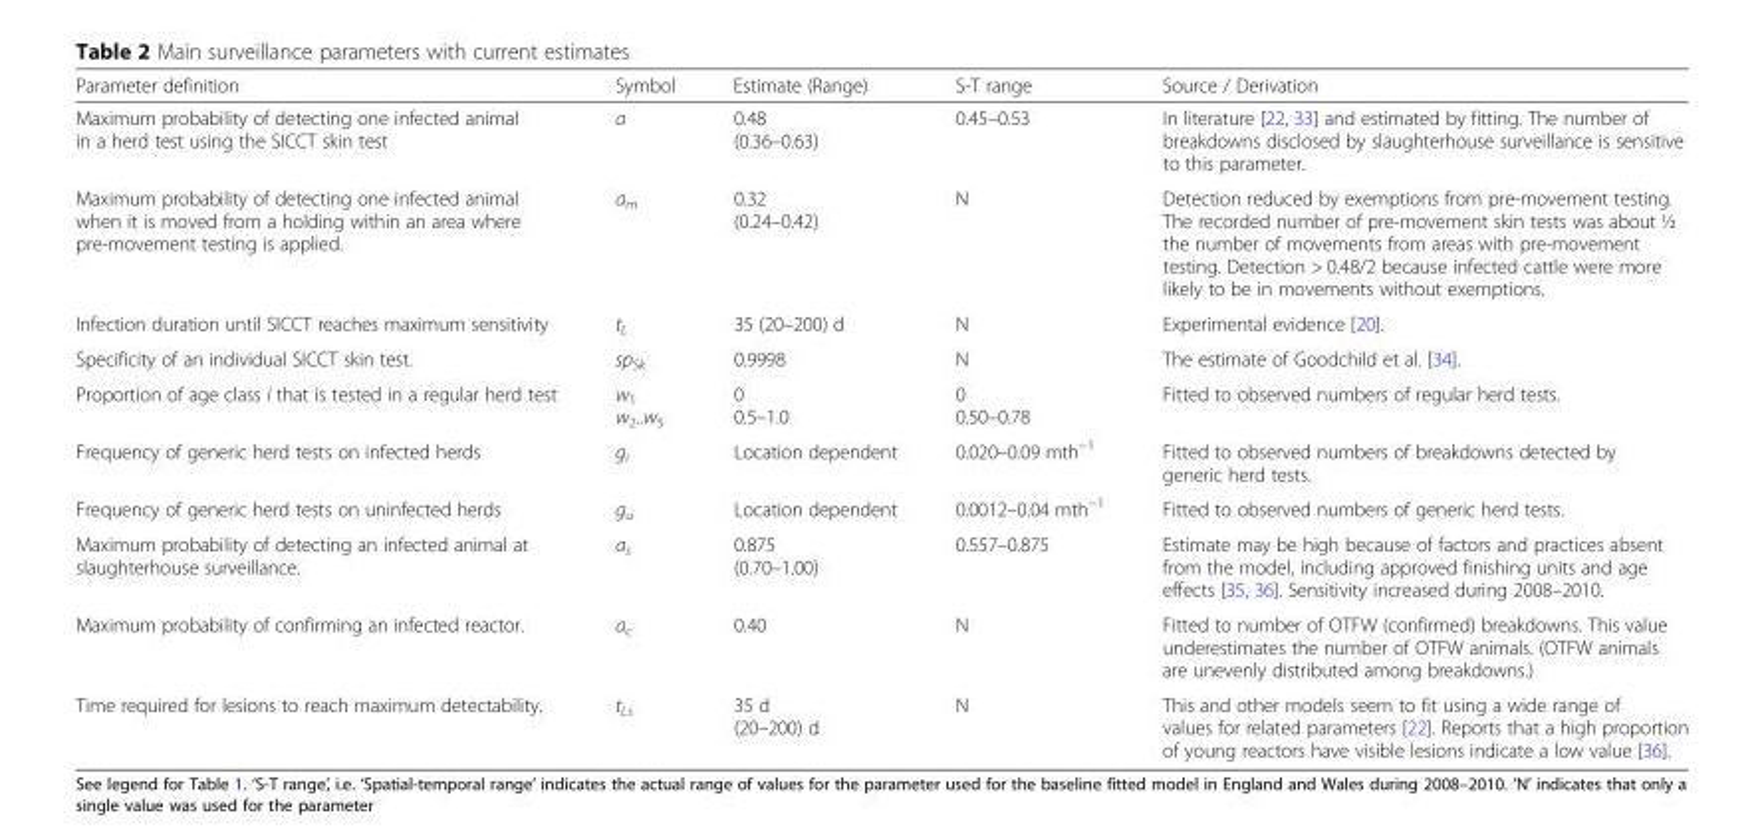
<table><thead><tr><td>Parameter definition</td><td>Symbol</td><td>Estimate (Range)</td><td>S-T range</td><td>Source / Derivation</td></tr></thead><tbody><tr><td>Maximum probability of detecting one infected animal in a herd test using the SICCT skin test</td><td>a</td><td>0.48 (0.36–0.63)</td><td>0.45–0.53</td><td>In literature [22, 33] and estimated by fitting. The number of breakdowns disclosed by slaughterhouse surveillance is sensitive to this parameter.</td></tr><tr><td>Maximum probability of detecting one infected animal when it is moved from a holding within an area where pre-movement testing is applied.</td><td>a<sub>m</sub></td><td>0.32 (0.24–0.42)</td><td>N</td><td>Detection reduced by exemptions from pre-movement testing. The recorded number of pre-movement skin tests was about ½ the number of movements from areas with pre-movement testing. Detection &gt; 0.48/2 because infected cattle were more likely to be in movements without exemptions.</td></tr><tr><td>Infection duration until SICCT reaches maximum sensitivity</td><td>t<sub>L</sub></td><td>35 (20–200) d</td><td>N</td><td>Experimental evidence [20].</td></tr><tr><td>Specificity of an individual SICCT skin test.</td><td>sp<sub>Sk</sub></td><td>0.9998</td><td>N</td><td>The estimate of Goodchild et al. [34].</td></tr><tr><td>Proportion of age class i that is tested in a regular herd test</td><td>w<sub>1</sub> w<sub>2</sub>..w<sub>5</sub></td><td>0 0.5–1.0</td><td>0 0.50–0.78</td><td>Fitted to observed numbers of regular herd tests.</td></tr><tr><td>Frequency of generic herd tests on infected herds</td><td>g<sub>i</sub></td><td>Location dependent</td><td>0.020–0.09 mth<sup>−1</sup></td><td>Fitted to observed numbers of breakdowns detected by generic herd tests.</td></tr><tr><td>Frequency of generic herd tests on uninfected herds</td><td>g<sub>u</sub></td><td>Location dependent</td><td>0.0012–0.04 mth<sup>−1</sup></td><td>Fitted to observed numbers of generic herd tests.</td></tr><tr><td>Maximum probability of detecting an infected animal at slaughterhouse surveillance.</td><td>a<sub>s</sub></td><td>0.875 (0.70–1.00)</td><td>0.557–0.875</td><td>Estimate may be high because of factors and practices absent from the model, including approved finishing units and age effects [35, 36]. Sensitivity increased during 2008–2010.</td></tr><tr><td>Maximum probability of confirming an infected reactor.</td><td>a<sub>c</sub></td><td>0.40</td><td>N</td><td>Fitted to number of OTFW (confirmed) breakdowns. This value underestimates the number of OTFW animals. (OTFW animals are unevenly distributed among breakdowns.)</td></tr><tr><td>Time required for lesions to reach maximum detectability.</td><td>t<sub>Ls</sub></td><td>35 d (20–200) d</td><td>N</td><td>This and other models seem to fit using a wide range of values for related parameters [22]. Reports that a high proportion of young reactors have visible lesions indicate a low value [36].</td></tr></tbody></table>